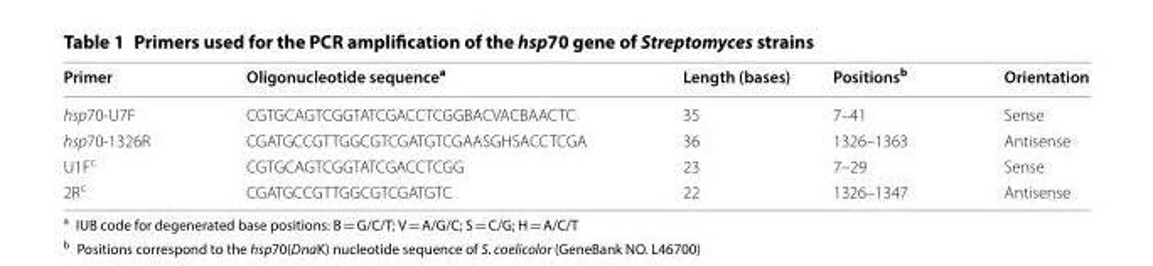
<table><thead><tr><td>Primer</td><td>Oligonucleotide sequence<sup>a</sup></td><td>Length (bases)</td><td>Positions<sup>b</sup></td><td>Orientation</td></tr></thead><tbody><tr><td>hsp70-U7F</td><td>CGT GCA GTC GGT ATC GAC CTCGGBACVACBAACTC</td><td>35</td><td>7–41</td><td>Sense</td></tr><tr><td>hsp70-1326R</td><td>CGA TGC CGT TGG CGT CGA TGT CGA ASGHSACC TCG A</td><td>36</td><td>1326–1363</td><td>Antisense</td></tr><tr><td>U1F<sup>c</sup></td><td>CGT GCA GTC GGT ATC GAC CTCGG</td><td>23</td><td>7–29</td><td>Sense</td></tr><tr><td>2R<sup>c</sup></td><td>CGA TGC CGT TGG CGT CGA TGTC</td><td>22</td><td>1326–1347</td><td>Antisense</td></tr></tbody></table>